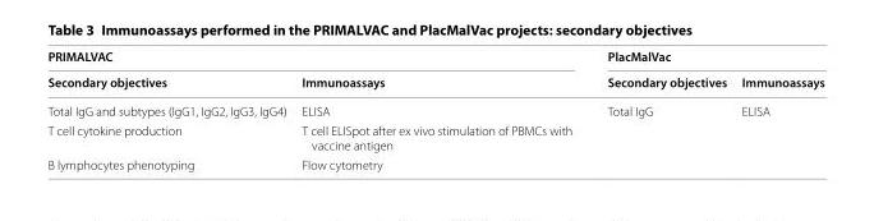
<table><thead><tr><td colspan="2">PRIMALVAC</td><td colspan="2">PlacMalVac</td></tr><tr><td>Secondary objectives</td><td>Immunoassays</td><td>Secondary objectives</td><td>Immunoassays</td></tr></thead><tbody><tr><td>Total IgG and subtypes (IgG1, IgG2, IgG3, IgG4)</td><td>ELISA</td><td>Total IgG</td><td>ELISA</td></tr><tr><td>T cell cytokine production</td><td>T cell ELISpot after ex vivo stimulation of PBMCs with vaccine antigen</td><td></td><td></td></tr><tr><td>B lymphocytes phenotyping</td><td>Flow cytometry</td><td></td><td></td></tr></tbody></table>